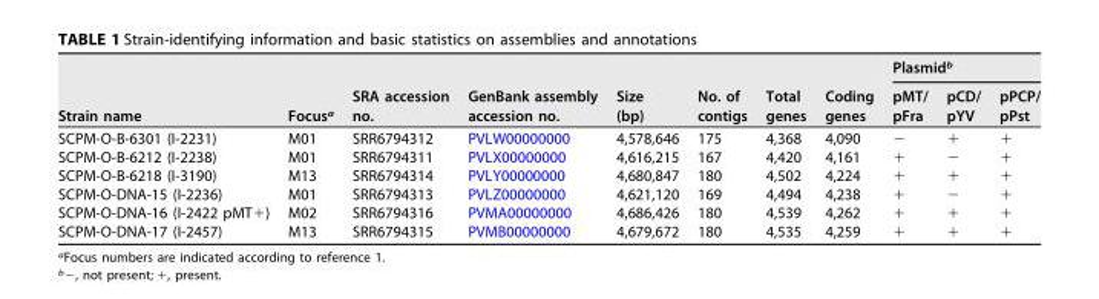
<table><thead><tr><td rowspan="2">Strain name</td><td rowspan="2">Focus<sup>a</sup></td><td rowspan="2">SRA accession no.</td><td rowspan="2">GenBank assembly accession no.</td><td rowspan="2">Size (bp)</td><td rowspan="2">No. of contigs</td><td rowspan="2">Total genes</td><td rowspan="2">Coding genes</td><td colspan="3">Plasmid<sup>b</sup></td></tr><tr><td>pMT/ pFra</td><td>pCD/ pYV</td><td>pPCP/ pPst</td></tr></thead><tbody><tr><td>SCPM-O-B-6301 (I-2231)</td><td>M01</td><td>SRR6794312</td><td>PVLW00000000</td><td>4,578,646</td><td>175</td><td>4,368</td><td>4,090</td><td>−</td><td>+</td><td>+</td></tr><tr><td>SCPM-O-B-6212 (I-2238)</td><td>M01</td><td>SRR6794311</td><td>PVLX00000000</td><td>4,616,215</td><td>167</td><td>4,420</td><td>4,161</td><td>+</td><td>−</td><td>+</td></tr><tr><td>SCPM-O-B-6218 (I-3190)</td><td>M13</td><td>SRR6794314</td><td>PVLY00000000</td><td>4,680,847</td><td>180</td><td>4,502</td><td>4,224</td><td>+</td><td>+</td><td>+</td></tr><tr><td>SCPM-O-DNA-15 (I-2236)</td><td>M01</td><td>SRR6794313</td><td>PVLZ00000000</td><td>4,621,120</td><td>169</td><td>4,494</td><td>4,238</td><td>+</td><td>−</td><td>+</td></tr><tr><td>SCPM-O-DNA-16 (I-2422 pMT+)</td><td>M02</td><td>SRR6794316</td><td>PVMA00000000</td><td>4,686,426</td><td>180</td><td>4,539</td><td>4,262</td><td>+</td><td>+</td><td>+</td></tr><tr><td>SCPM-O-DNA-17 (I-2457)</td><td>M13</td><td>SRR6794315</td><td>PVMB00000000</td><td>4,679,672</td><td>180</td><td>4,535</td><td>4,259</td><td>+</td><td>+</td><td>+</td></tr></tbody></table>